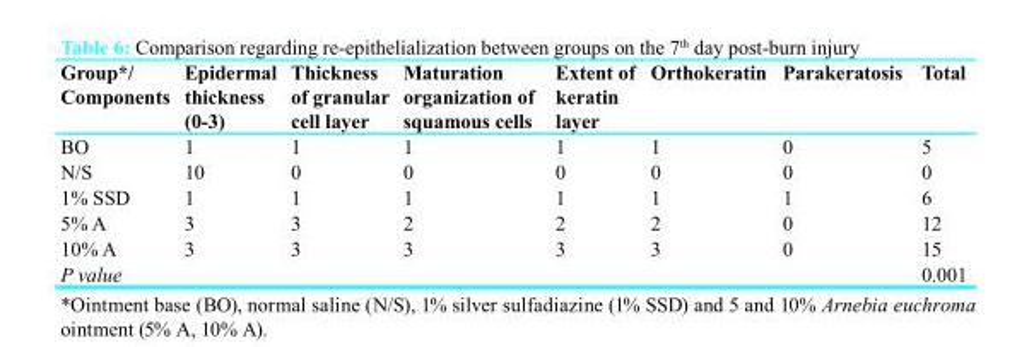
<table><thead><tr><td>Group*/ Components</td><td>Epidermal thickness (0-3)</td><td>Thickness of granular cell layer</td><td>Maturation organization of squamous cells</td><td>Extent of keratin layer</td><td>Orthokeratin</td><td>Parakeratosis</td><td>Total</td></tr></thead><tbody><tr><td>BO</td><td>1</td><td>1</td><td>1</td><td>1</td><td>1</td><td>0</td><td>5</td></tr><tr><td>N/S</td><td>10</td><td>0</td><td>0</td><td>0</td><td>0</td><td>0</td><td>0</td></tr><tr><td>1% SSD</td><td>1</td><td>1</td><td>1</td><td>1</td><td>1</td><td>1</td><td>6</td></tr><tr><td>5% A</td><td>3</td><td>3</td><td>2</td><td>2</td><td>2</td><td>0</td><td>12</td></tr><tr><td>10% A</td><td>3</td><td>3</td><td>3</td><td>3</td><td>3</td><td>0</td><td>15</td></tr><tr><td>P value</td><td></td><td></td><td></td><td></td><td></td><td></td><td>0.001</td></tr></tbody></table>